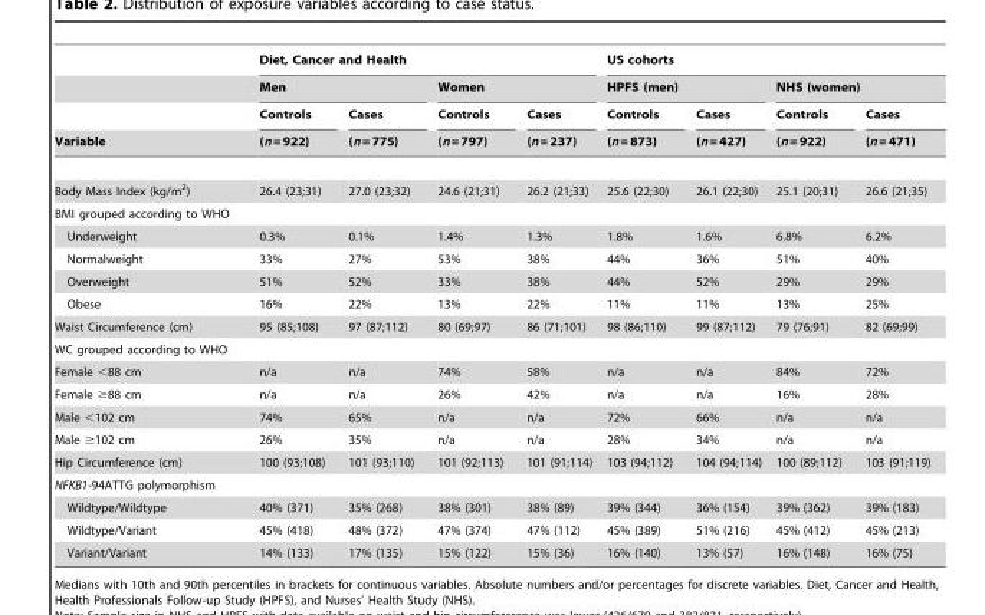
<table><thead><tr><td rowspan="4">Variable</td><td colspan="4">Diet, Cancer and Health</td><td colspan="4">US cohorts</td></tr><tr><td colspan="2">Men</td><td colspan="2">Women</td><td colspan="2">HPFS (men)</td><td colspan="2">NHS (women)</td></tr><tr><td rowspan="2">Controls (n = 922)</td><td rowspan="2">Cases (n = 775)</td><td rowspan="2">Controls (n = 797)</td><td rowspan="2">Cases (n = 237)</td><td rowspan="2">Controls (n = 873)</td><td rowspan="2">Cases (n = 427)</td><td rowspan="2">Controls (n = 922)</td><td rowspan="2">Cases (n = 471)</td></tr><tr></tr></thead><tbody><tr><td>Body Mass Index (kg/m<sup>2</sup>)</td><td>26.4 (23;31)</td><td>27.0 (23;32)</td><td>24.6 (21;31)</td><td>26.2 (21;33)</td><td>25.6 (22;30)</td><td>26.1 (22;30)</td><td>25.1 (20;31)</td><td>26.6 (21;35)</td></tr><tr><td colspan="9">BMI grouped according to WHO</td></tr><tr><td>Underweight</td><td>0.3%</td><td>0.1%</td><td>1.4%</td><td>1.3%</td><td>1.8%</td><td>1.6%</td><td>6.8%</td><td>6.2%</td></tr><tr><td>Normalweight</td><td>33%</td><td>27%</td><td>53%</td><td>38%</td><td>44%</td><td>36%</td><td>51%</td><td>40%</td></tr><tr><td>Overweight</td><td>51%</td><td>52%</td><td>33%</td><td>38%</td><td>44%</td><td>52%</td><td>29%</td><td>29%</td></tr><tr><td>Obese</td><td>16%</td><td>22%</td><td>13%</td><td>22%</td><td>11%</td><td>11%</td><td>13%</td><td>25%</td></tr><tr><td>Waist Circumference (cm)</td><td>95 (85;108)</td><td>97 (87;112)</td><td>80 (69;97)</td><td>86 (71;101)</td><td>98 (86;110)</td><td>99 (87;112)</td><td>79 (76;91)</td><td>82 (69;99)</td></tr><tr><td colspan="9">WC grouped according to WHO</td></tr><tr><td>Female &lt;88 cm</td><td>n/a</td><td>n/a</td><td>74%</td><td>58%</td><td>n/a</td><td>n/a</td><td>84%</td><td>72%</td></tr><tr><td>Female ≥88 cm</td><td>n/a</td><td>n/a</td><td>26%</td><td>42%</td><td>n/a</td><td>n/a</td><td>16%</td><td>28%</td></tr><tr><td>Male &lt;102 cm</td><td>74%</td><td>65%</td><td>n/a</td><td>n/a</td><td>72%</td><td>66%</td><td>n/a</td><td>n/a</td></tr><tr><td>Male ≥102 cm</td><td>26%</td><td>35%</td><td>n/a</td><td>n/a</td><td>28%</td><td>34%</td><td>n/a</td><td>n/a</td></tr><tr><td>Hip Circumference (cm)</td><td>100 (93;108)</td><td>101 (93;110)</td><td>101 (92;113)</td><td>101 (91;114)</td><td>103 (94;112)</td><td>104 (94;114)</td><td>100 (89;112)</td><td>103 (91;119)</td></tr><tr><td colspan="9">NFKB1-94ATTG polymorphism</td></tr><tr><td>Wildtype/Wildtype</td><td>40% (371)</td><td>35% (268)</td><td>38% (301)</td><td>38% (89)</td><td>39% (344)</td><td>36% (154)</td><td>39% (362)</td><td>39% (183)</td></tr><tr><td>Wildtype/Variant</td><td>45% (418)</td><td>48% (372)</td><td>47% (374)</td><td>47% (112)</td><td>45% (389)</td><td>51% (216)</td><td>45% (412)</td><td>45% (213)</td></tr><tr><td>Variant/Variant</td><td>14% (133)</td><td>17% (135)</td><td>15% (122)</td><td>15% (36)</td><td>16% (140)</td><td>13% (57)</td><td>16% (148)</td><td>16% (75)</td></tr></tbody></table>